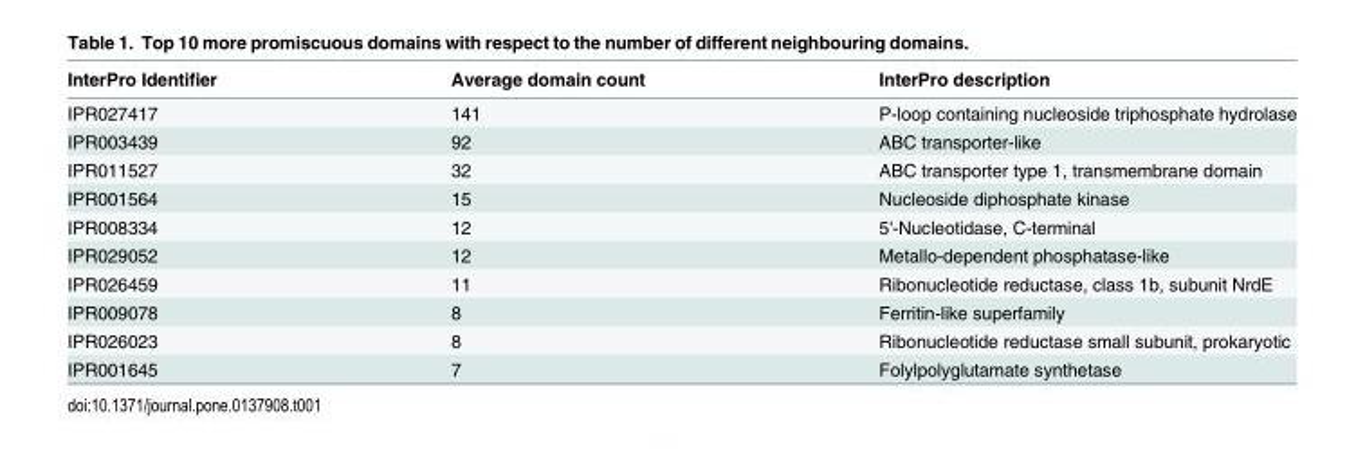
<table><thead><tr><td>InterPro Identifier</td><td>Average domain count</td><td>InterPro description</td></tr></thead><tbody><tr><td>IPR027417</td><td>141</td><td>P-loop containing nucleoside triphosphate hydrolase</td></tr><tr><td>IPR003439</td><td>92</td><td>ABC transporter-like</td></tr><tr><td>IPR011527</td><td>32</td><td>ABC transporter type 1, transmembrane domain</td></tr><tr><td>IPR001564</td><td>15</td><td>Nucleoside diphosphate kinase</td></tr><tr><td>IPR008334</td><td>12</td><td>5&#x27;-Nucleotidase, C-terminal</td></tr><tr><td>IPR029052</td><td>12</td><td>Metallo-dependent phosphatase-like</td></tr><tr><td>IPR026459</td><td>11</td><td>Ribonucleotide reductase, class 1b, subunit NrdE</td></tr><tr><td>IPR009078</td><td>8</td><td>Ferritin-like superfamily</td></tr><tr><td>IPR026023</td><td>8</td><td>Ribonucleotide reductase small subunit, prokaryotic</td></tr><tr><td>IPR001645</td><td>7</td><td>Folylpolyglutamate synthetase</td></tr></tbody></table>